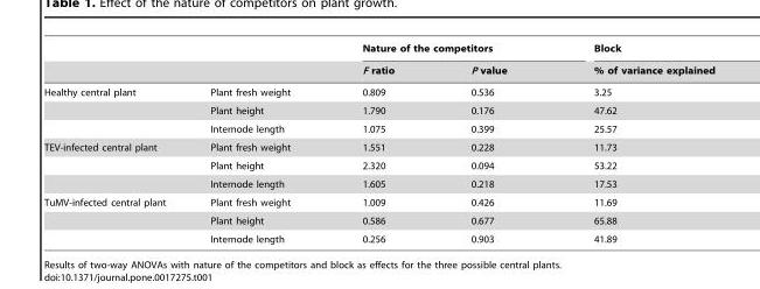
<table><thead><tr><td rowspan="2"></td><td rowspan="2"></td><td colspan="2">Nature of the competitors</td><td rowspan="2">Block % of variance explained</td></tr><tr><td>F ratio</td><td>P value</td></tr></thead><tbody><tr><td rowspan="3">Healthy central plant</td><td>Plant fresh weight</td><td>0.809</td><td>0.536</td><td>3.25</td></tr><tr><td>Plant height</td><td>1.790</td><td>0.176</td><td>47.62</td></tr><tr><td>Internode length</td><td>1.075</td><td>0.399</td><td>25.57</td></tr><tr><td rowspan="3">TEV-infected central plant</td><td>Plant fresh weight</td><td>1.551</td><td>0.228</td><td>11.73</td></tr><tr><td>Plant height</td><td>2.320</td><td>0.094</td><td>53.22</td></tr><tr><td>Internode length</td><td>1.605</td><td>0.218</td><td>17.53</td></tr><tr><td rowspan="3">TuMV-infected central plant</td><td>Plant fresh weight</td><td>1.009</td><td>0.426</td><td>11.69</td></tr><tr><td>Plant height</td><td>0.586</td><td>0.677</td><td>65.88</td></tr><tr><td>Internode length</td><td>0.256</td><td>0.903</td><td>41.89</td></tr></tbody></table>